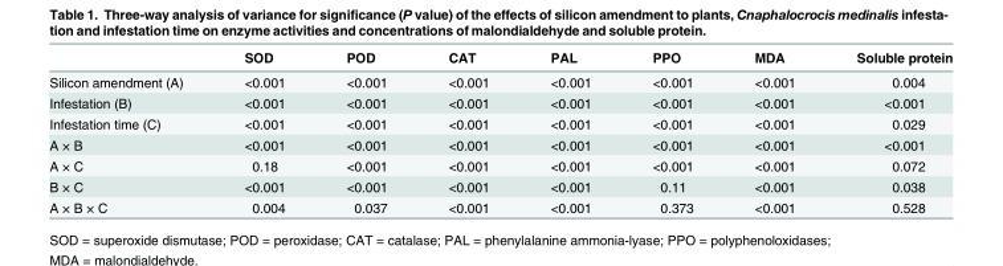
<table><thead><tr><td></td><td>SOD</td><td>POD</td><td>CAT</td><td>PAL</td><td>PPO</td><td>MDA</td><td>Soluble protein</td></tr></thead><tbody><tr><td>Silicon amendment (A)</td><td>&lt;0.001</td><td>&lt;0.001</td><td>&lt;0.001</td><td>&lt;0.001</td><td>&lt;0.001</td><td>&lt;0.001</td><td>0.004</td></tr><tr><td>Infestation (B)</td><td>&lt;0.001</td><td>&lt;0.001</td><td>&lt;0.001</td><td>&lt;0.001</td><td>&lt;0.001</td><td>&lt;0.001</td><td>&lt;0.001</td></tr><tr><td>Infestation time (C)</td><td>&lt;0.001</td><td>&lt;0.001</td><td>&lt;0.001</td><td>&lt;0.001</td><td>&lt;0.001</td><td>&lt;0.001</td><td>0.029</td></tr><tr><td>A × B</td><td>&lt;0.001</td><td>&lt;0.001</td><td>&lt;0.001</td><td>&lt;0.001</td><td>&lt;0.001</td><td>&lt;0.001</td><td>&lt;0.001</td></tr><tr><td>A × C</td><td>0.18</td><td>&lt;0.001</td><td>&lt;0.001</td><td>&lt;0.001</td><td>&lt;0.001</td><td>&lt;0.001</td><td>0.072</td></tr><tr><td>B × C</td><td>&lt;0.001</td><td>&lt;0.001</td><td>&lt;0.001</td><td>&lt;0.001</td><td>0.11</td><td>&lt;0.001</td><td>0.038</td></tr><tr><td>A × B × C</td><td>0.004</td><td>0.037</td><td>&lt;0.001</td><td>&lt;0.001</td><td>0.373</td><td>&lt;0.001</td><td>0.528</td></tr></tbody></table>